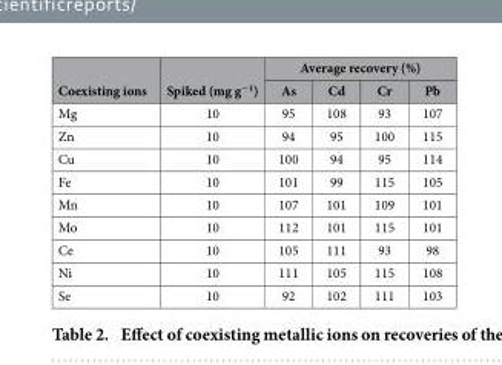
<table><thead><tr><td rowspan="2">Coexisting ions</td><td rowspan="2">Spiked (mg g<sup>−1</sup>)</td><td colspan="4">Average recovery (%)</td></tr><tr><td>As</td><td>Cd</td><td>Cr</td><td>Pb</td></tr></thead><tbody><tr><td>Mg</td><td>10</td><td>95</td><td>108</td><td>93</td><td>107</td></tr><tr><td>Zn</td><td>10</td><td>94</td><td>95</td><td>100</td><td>115</td></tr><tr><td>Cu</td><td>10</td><td>100</td><td>94</td><td>95</td><td>114</td></tr><tr><td>Fe</td><td>10</td><td>101</td><td>99</td><td>115</td><td>105</td></tr><tr><td>Mn</td><td>10</td><td>107</td><td>101</td><td>109</td><td>101</td></tr><tr><td>Mo</td><td>10</td><td>112</td><td>101</td><td>115</td><td>101</td></tr><tr><td>Ce</td><td>10</td><td>105</td><td>111</td><td>93</td><td>98</td></tr><tr><td>Ni</td><td>10</td><td>111</td><td>105</td><td>115</td><td>108</td></tr><tr><td>Se</td><td>10</td><td>92</td><td>102</td><td>111</td><td>103</td></tr></tbody></table>